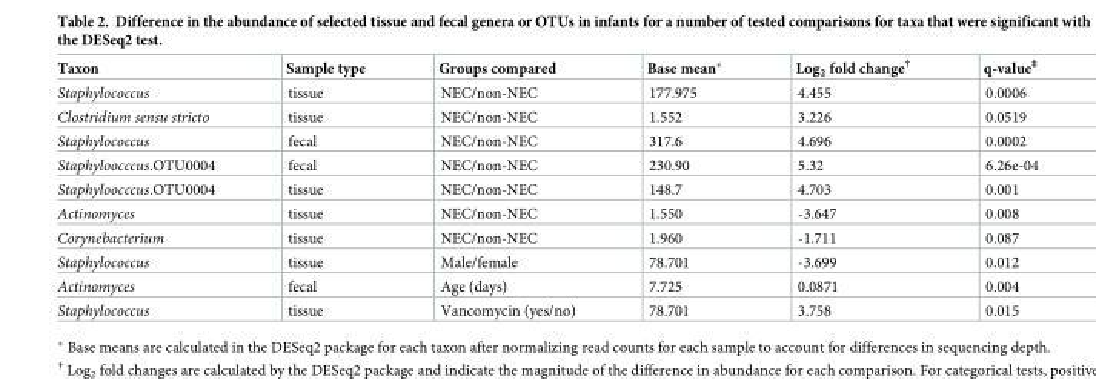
<table><thead><tr><td>Taxon</td><td>Sample type</td><td>Groups compared</td><td>Base mean*</td><td>Log<sub>2</sub> fold change<sup>†</sup></td><td>q-value<sup>‡</sup></td></tr></thead><tbody><tr><td>Staphylococcus</td><td>tissue</td><td>NEC/non-NEC</td><td>177.975</td><td>4.455</td><td>0.0006</td></tr><tr><td>Clostridium sensu stricto</td><td>tissue</td><td>NEC/non-NEC</td><td>1.552</td><td>3.226</td><td>0.0519</td></tr><tr><td>Staphylococcus</td><td>fecal</td><td>NEC/non-NEC</td><td>317.6</td><td>4.696</td><td>0.0002</td></tr><tr><td>Staphyloocccus.OTU0004</td><td>fecal</td><td>NEC/non-NEC</td><td>230.90</td><td>5.32</td><td>6.26e-04</td></tr><tr><td>Staphyloocccus.OTU0004</td><td>tissue</td><td>NEC/non-NEC</td><td>148.7</td><td>4.703</td><td>0.001</td></tr><tr><td>Actinomyces</td><td>tissue</td><td>NEC/non-NEC</td><td>1.550</td><td>-3.647</td><td>0.008</td></tr><tr><td>Corynebacterium</td><td>tissue</td><td>NEC/non-NEC</td><td>1.960</td><td>-1.711</td><td>0.087</td></tr><tr><td>Staphylococcus</td><td>tissue</td><td>Male/female</td><td>78.701</td><td>-3.699</td><td>0.012</td></tr><tr><td>Actinomyces</td><td>fecal</td><td>Age (days)</td><td>7.725</td><td>0.0871</td><td>0.004</td></tr><tr><td>Staphylococcus</td><td>tissue</td><td>Vancomycin (yes/no)</td><td>78.701</td><td>3.758</td><td>0.015</td></tr></tbody></table>